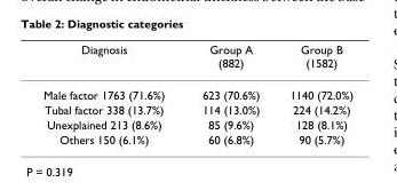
<table><thead><tr><td>Diagnosis</td><td>Group A (882)</td><td>Group B (1582)</td></tr></thead><tbody><tr><td>Male factor 1763 (71.6%)</td><td>623 (70.6%)</td><td>1140 (72.0%)</td></tr><tr><td>Tubal factor 338 (13.7%)</td><td>114 (13.0%)</td><td>224 (14.2%)</td></tr><tr><td>Unexplained 213 (8.6%)</td><td>85 (9.6%)</td><td>128 (8.1%)</td></tr><tr><td>Others 150 (6.1%)</td><td>60 (6.8%)</td><td>90 (5.7%)</td></tr></tbody></table>